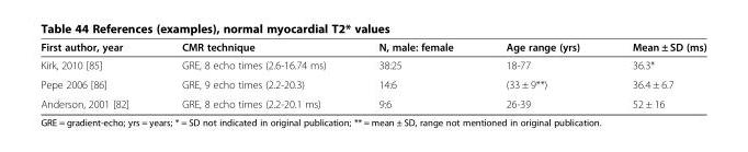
<table><thead><tr><td>First author, year</td><td>CMR technique</td><td>N, male: female</td><td>Age range (yrs)</td><td>Mean ± SD (ms)</td></tr></thead><tbody><tr><td>Kirk, 2010 [85]</td><td>GRE, 8 echo times (2.6-16.74 ms)</td><td>38:25</td><td>18-77</td><td>36.3*</td></tr><tr><td>Pepe 2006 [86]</td><td>GRE, 9 echo times (2.2-20.3)</td><td>14:6</td><td>(33 ± 9**)</td><td>36.4 ± 6.7</td></tr><tr><td>Anderson, 2001 [82]</td><td>GRE, 8 echo times (2.2-20.1 ms)</td><td>9:6</td><td>26-39</td><td>52 ± 16</td></tr></tbody></table>